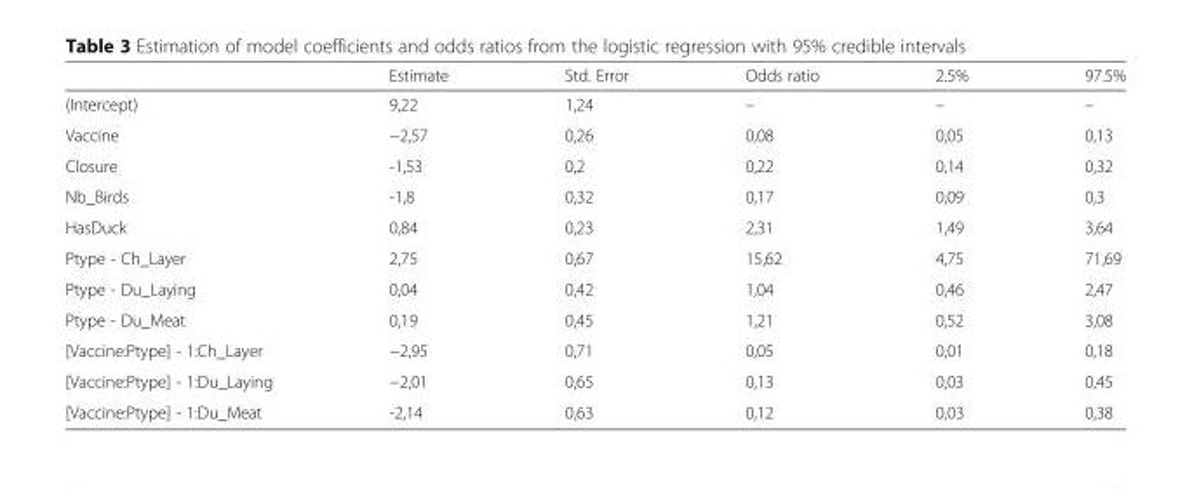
<table><thead><tr><td></td><td>Estimate</td><td>Std. Error</td><td>Odds ratio</td><td>2.5%</td><td>97.5%</td></tr></thead><tbody><tr><td>(Intercept)</td><td>9,22</td><td>1,24</td><td>–</td><td>–</td><td>–</td></tr><tr><td>Vaccine</td><td>−2,57</td><td>0,26</td><td>0,08</td><td>0,05</td><td>0,13</td></tr><tr><td>Closure</td><td>-1,53</td><td>0,2</td><td>0,22</td><td>0,14</td><td>0,32</td></tr><tr><td>Nb_Birds</td><td>-1,8</td><td>0,32</td><td>0,17</td><td>0,09</td><td>0,3</td></tr><tr><td>HasDuck</td><td>0,84</td><td>0,23</td><td>2,31</td><td>1,49</td><td>3,64</td></tr><tr><td>Ptype - Ch_Layer</td><td>2,75</td><td>0,67</td><td>15,62</td><td>4,75</td><td>71,69</td></tr><tr><td>Ptype - Du_Laying</td><td>0,04</td><td>0,42</td><td>1,04</td><td>0,46</td><td>2,47</td></tr><tr><td>Ptype - Du_Meat</td><td>0,19</td><td>0,45</td><td>1,21</td><td>0,52</td><td>3,08</td></tr><tr><td>[Vaccine:Ptype] - 1:Ch_Layer</td><td>−2,95</td><td>0,71</td><td>0,05</td><td>0,01</td><td>0,18</td></tr><tr><td>[Vaccine:Ptype] - 1:Du_Laying</td><td>−2,01</td><td>0,65</td><td>0,13</td><td>0,03</td><td>0,45</td></tr><tr><td>[Vaccine:Ptype] - 1:Du_Meat</td><td>-2,14</td><td>0,63</td><td>0,12</td><td>0,03</td><td>0,38</td></tr></tbody></table>